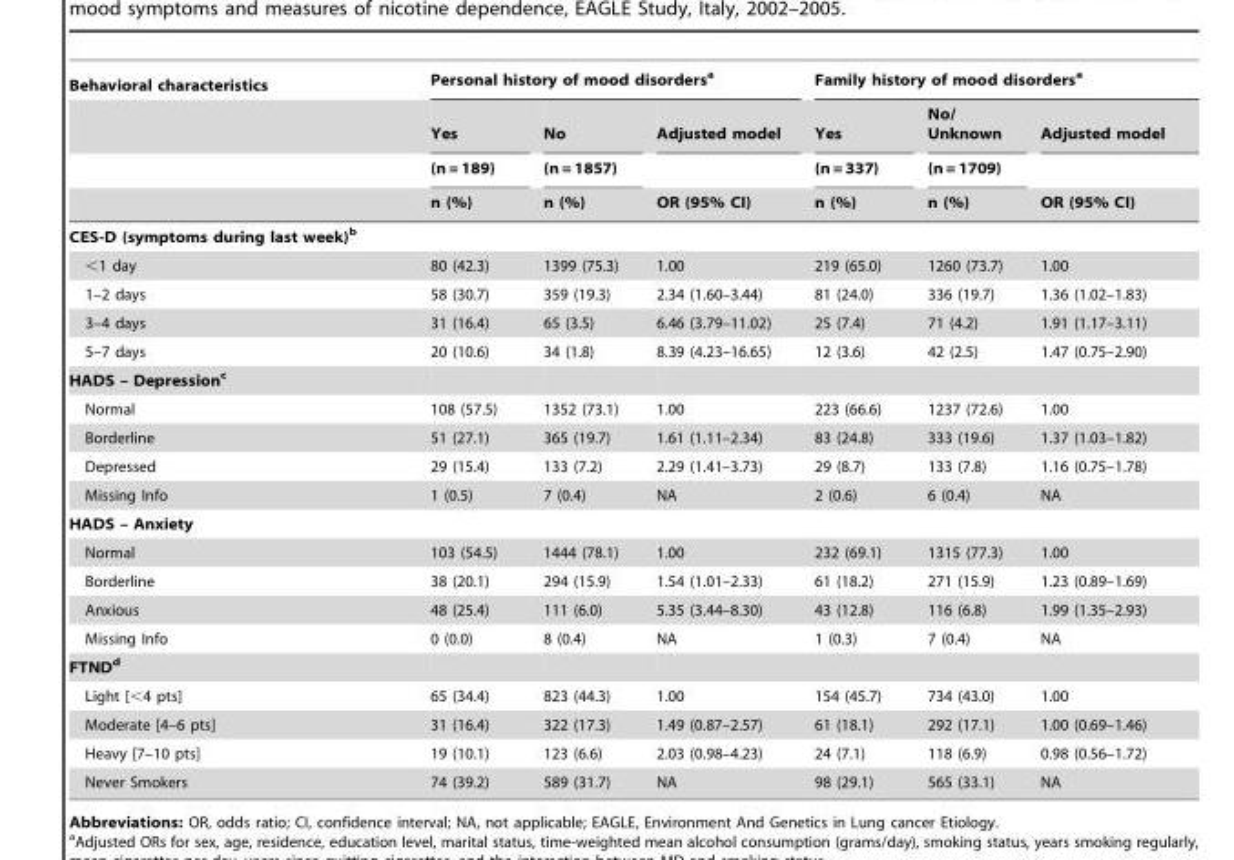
<table><thead><tr><td rowspan="4">Behavioral characteristics</td><td colspan="3">Personal history of mood disorders<sup>a</sup></td><td colspan="3">Family history of mood disorders<sup>a</sup></td></tr><tr><td rowspan="3">Yes (n = 189) n (%)</td><td rowspan="3">No (n = 1857) n (%)</td><td rowspan="3">Adjusted model OR (95% CI)</td><td rowspan="3">Yes (n = 337) n (%)</td><td rowspan="3">No/ Unknown (n = 1709) n (%)</td><td rowspan="3">Adjusted model OR (95% CI)</td></tr><tr></tr><tr></tr></thead><tbody><tr><td colspan="7">CES-D (symptoms during last week)b</td></tr><tr><td>&lt;1 day</td><td>80 (42.3)</td><td>1399 (75.3)</td><td>1.00</td><td>219 (65.0)</td><td>1260 (73.7)</td><td>1.00</td></tr><tr><td>1–2 days</td><td>58 (30.7)</td><td>359 (19.3)</td><td>2.34 (1.60–3.44)</td><td>81 (24.0)</td><td>336 (19.7)</td><td>1.36 (1.02–1.83)</td></tr><tr><td>3–4 days</td><td>31 (16.4)</td><td>65 (3.5)</td><td>6.46 (3.79–11.02)</td><td>25 (7.4)</td><td>71 (4.2)</td><td>1.91 (1.17–3.11)</td></tr><tr><td>5–7 days</td><td>20 (10.6)</td><td>34 (1.8)</td><td>8.39 (4.23–16.65)</td><td>12 (3.6)</td><td>42 (2.5)</td><td>1.47 (0.75–2.90)</td></tr><tr><td colspan="7">HADS – Depressionc</td></tr><tr><td>Normal</td><td>108 (57.5)</td><td>1352 (73.1)</td><td>1.00</td><td>223 (66.6)</td><td>1237 (72.6)</td><td>1.00</td></tr><tr><td>Borderline</td><td>51 (27.1)</td><td>365 (19.7)</td><td>1.61 (1.11–2.34)</td><td>83 (24.8)</td><td>333 (19.6)</td><td>1.37 (1.03–1.82)</td></tr><tr><td>Depressed</td><td>29 (15.4)</td><td>133 (7.2)</td><td>2.29 (1.41–3.73)</td><td>29 (8.7)</td><td>133 (7.8)</td><td>1.16 (0.75–1.78)</td></tr><tr><td>Missing Info</td><td>1 (0.5)</td><td>7 (0.4)</td><td>NA</td><td>2 (0.6)</td><td>6 (0.4)</td><td>NA</td></tr><tr><td colspan="7">HADS – Anxiety</td></tr><tr><td>Normal</td><td>103 (54.5)</td><td>1444 (78.1)</td><td>1.00</td><td>232 (69.1)</td><td>1315 (77.3)</td><td>1.00</td></tr><tr><td>Borderline</td><td>38 (20.1)</td><td>294 (15.9)</td><td>1.54 (1.01–2.33)</td><td>61 (18.2)</td><td>271 (15.9)</td><td>1.23 (0.89–1.69)</td></tr><tr><td>Anxious</td><td>48 (25.4)</td><td>111 (6.0)</td><td>5.35 (3.44–8.30)</td><td>43 (12.8)</td><td>116 (6.8)</td><td>1.99 (1.35–2.93)</td></tr><tr><td>Missing Info</td><td>0 (0.0)</td><td>8 (0.4)</td><td>NA</td><td>1 (0.3)</td><td>7 (0.4)</td><td>NA</td></tr><tr><td colspan="7">FTNDd</td></tr><tr><td>Light [&lt;4 pts]</td><td>65 (34.4)</td><td>823 (44.3)</td><td>1.00</td><td>154 (45.7)</td><td>734 (43.0)</td><td>1.00</td></tr><tr><td>Moderate [4–6 pts]</td><td>31 (16.4)</td><td>322 (17.3)</td><td>1.49 (0.87–2.57)</td><td>61 (18.1)</td><td>292 (17.1)</td><td>1.00 (0.69–1.46)</td></tr><tr><td>Heavy [7–10 pts]</td><td>19 (10.1)</td><td>123 (6.6)</td><td>2.03 (0.98–4.23)</td><td>24 (7.1)</td><td>118 (6.9)</td><td>0.98 (0.56–1.72)</td></tr><tr><td>Never Smokers</td><td>74 (39.2)</td><td>589 (31.7)</td><td>NA</td><td>98 (29.1)</td><td>565 (33.1)</td><td>NA</td></tr></tbody></table>